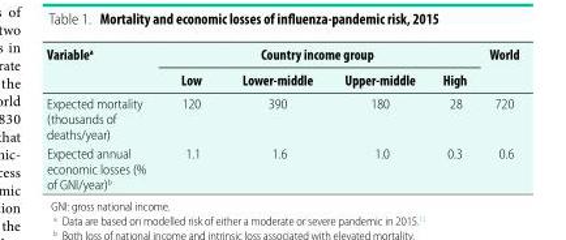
<table><thead><tr><td rowspan="2">Variable<sup>a</sup></td><td colspan="4">Country income group</td><td rowspan="2">World</td></tr><tr><td>Low</td><td>Lower-middle</td><td>Upper-middle</td><td>High</td></tr></thead><tbody><tr><td>Expected mortality (thousands of deaths/year)</td><td>120</td><td>390</td><td>180</td><td>28</td><td>720</td></tr><tr><td>Expected annual economic losses (% of GNI/year)<sup>b</sup></td><td>1.1</td><td>1.6</td><td>1.0</td><td>0.3</td><td>0.6</td></tr></tbody></table>